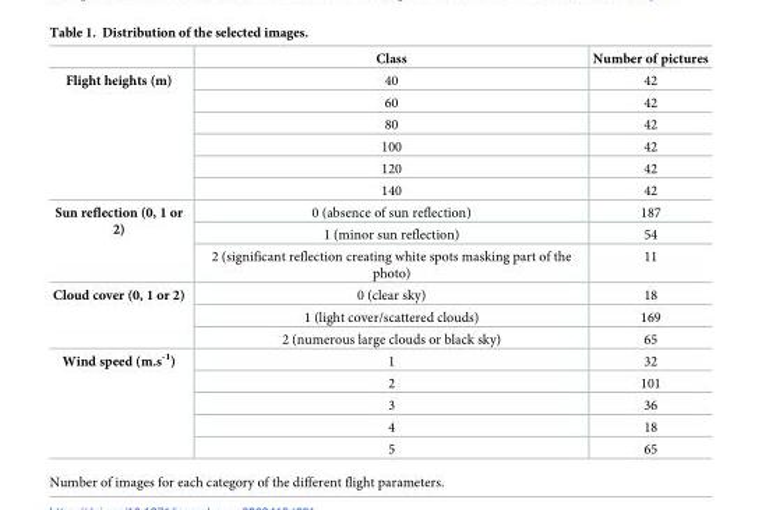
<table><thead><tr><td></td><td>Class</td><td>Number of pictures</td></tr></thead><tbody><tr><td rowspan="6">Flight heights (m)</td><td>40</td><td>42</td></tr><tr><td>60</td><td>42</td></tr><tr><td>80</td><td>42</td></tr><tr><td>100</td><td>42</td></tr><tr><td>120</td><td>42</td></tr><tr><td>140</td><td>42</td></tr><tr><td rowspan="3">Sun reflection (0, 1 or 2)</td><td>0 (absence of sun reflection)</td><td>187</td></tr><tr><td>1 (minor sun reflection)</td><td>54</td></tr><tr><td>2 (significant reflection creating white spots masking part of the photo)</td><td>11</td></tr><tr><td rowspan="3">Cloud cover (0, 1 or 2)</td><td>0 (clear sky)</td><td>18</td></tr><tr><td>1 (light cover/scattered clouds)</td><td>169</td></tr><tr><td>2 (numerous large clouds or black sky)</td><td>65</td></tr><tr><td rowspan="5">Wind speed (m.s<sup>-1</sup>)</td><td>1</td><td>32</td></tr><tr><td>2</td><td>101</td></tr><tr><td>3</td><td>36</td></tr><tr><td>4</td><td>18</td></tr><tr><td>5</td><td>65</td></tr></tbody></table>